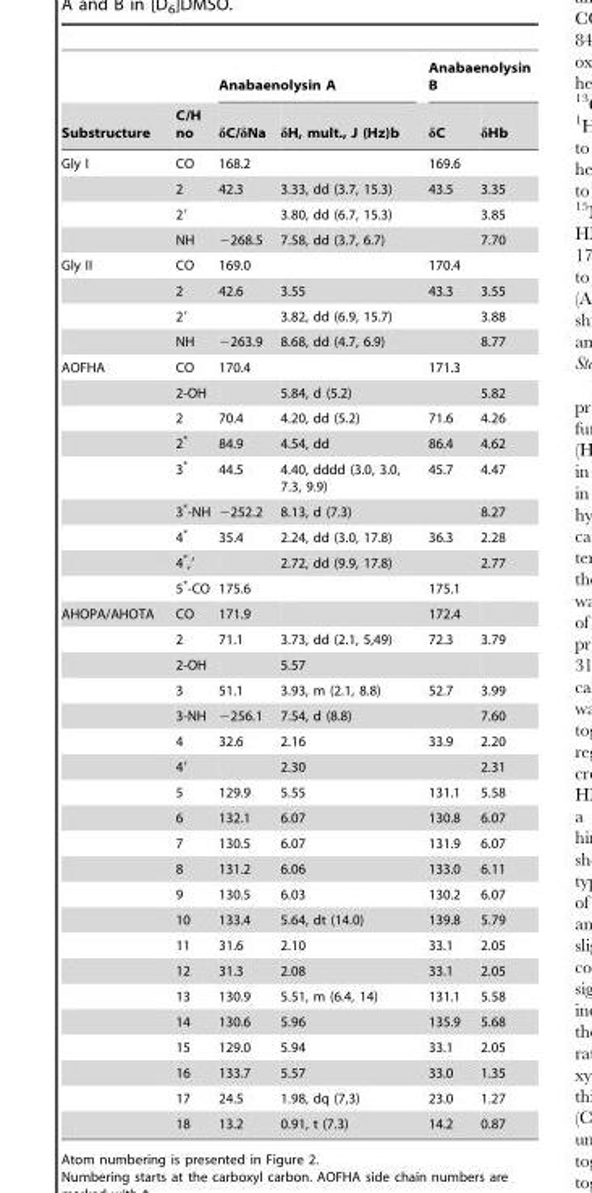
<table><thead><tr><td rowspan="2">Substructure</td><td rowspan="2">C/H no</td><td colspan="2">Anabaenolysin A</td><td colspan="2">Anabaenolysin B</td></tr><tr><td>δC/δNa</td><td>δH, mult., J (Hz)b</td><td>δC</td><td>δHb</td></tr></thead><tbody><tr><td rowspan="4">Gly I</td><td>CO</td><td>168.2</td><td></td><td>169.6</td><td></td></tr><tr><td>2</td><td>42.3</td><td>3.33, dd (3.7, 15.3)</td><td>43.5</td><td>3.35</td></tr><tr><td>2′</td><td></td><td>3.80, dd (6.7, 15.3)</td><td></td><td>3.85</td></tr><tr><td>NH</td><td>−268.5</td><td>7.58, dd (3.7, 6.7)</td><td></td><td>7.70</td></tr><tr><td rowspan="4">Gly II</td><td>CO</td><td>169.0</td><td></td><td>170.4</td><td></td></tr><tr><td>2</td><td>42.6</td><td>3.55</td><td>43.3</td><td>3.55</td></tr><tr><td>2′</td><td></td><td>3.82, dd (6.9, 15.7)</td><td></td><td>3.88</td></tr><tr><td>NH</td><td>−263.9</td><td>8.68, dd (4.7, 6.9)</td><td></td><td>8.77</td></tr><tr><td rowspan="9">AOFHA</td><td>CO</td><td>170.4</td><td></td><td>171.3</td><td></td></tr><tr><td>2-OH</td><td></td><td>5.84, d (5.2)</td><td></td><td>5.82</td></tr><tr><td>2</td><td>70.4</td><td>4.20, dd (5.2)</td><td>71.6</td><td>4.26</td></tr><tr><td>2*</td><td>84.9</td><td>4.54, dd</td><td>86.4</td><td>4.62</td></tr><tr><td>3*</td><td>44.5</td><td>4.40, dddd (3.0, 3.0, 7.3, 9.9)</td><td>45.7</td><td>4.47</td></tr><tr><td>3*-NH</td><td>−252.2</td><td>8.13, d (7.3)</td><td></td><td>8.27</td></tr><tr><td>4*</td><td>35.4</td><td>2.24, dd (3.0, 17.8)</td><td>36.3</td><td>2.28</td></tr><tr><td>4*,′</td><td></td><td>2.72, dd (9.9, 17.8)</td><td></td><td>2.77</td></tr><tr><td>5*-CO</td><td>175.6</td><td></td><td>175.1</td><td></td></tr><tr><td rowspan="21">AHOPA/AHOTA</td><td>CO</td><td>171.9</td><td></td><td>172.4</td><td></td></tr><tr><td>2</td><td>71.1</td><td>3.73, dd (2.1, 5,49)</td><td>72.3</td><td>3.79</td></tr><tr><td>2-OH</td><td></td><td>5.57</td><td></td><td></td></tr><tr><td>3</td><td>51.1</td><td>3.93, m (2.1, 8.8)</td><td>52.7</td><td>3.99</td></tr><tr><td>3-NH</td><td>−256.1</td><td>7.54, d (8.8)</td><td></td><td>7.60</td></tr><tr><td>4</td><td>32.6</td><td>2.16</td><td>33.9</td><td>2.20</td></tr><tr><td>4′</td><td></td><td>2.30</td><td></td><td>2.31</td></tr><tr><td>5</td><td>129.9</td><td>5.55</td><td>131.1</td><td>5.58</td></tr><tr><td>6</td><td>132.1</td><td>6.07</td><td>130.8</td><td>6.07</td></tr><tr><td>7</td><td>130.5</td><td>6.07</td><td>131.9</td><td>6.07</td></tr><tr><td>8</td><td>131.2</td><td>6.06</td><td>133.0</td><td>6.11</td></tr><tr><td>9</td><td>130.5</td><td>6.03</td><td>130.2</td><td>6.07</td></tr><tr><td>10</td><td>133.4</td><td>5.64, dt (14.0)</td><td>139.8</td><td>5.79</td></tr><tr><td>11</td><td>31.6</td><td>2.10</td><td>33.1</td><td>2.05</td></tr><tr><td>12</td><td>31.3</td><td>2.08</td><td>33.1</td><td>2.05</td></tr><tr><td>13</td><td>130.9</td><td>5.51, m (6.4, 14)</td><td>131.1</td><td>5.58</td></tr><tr><td>14</td><td>130.6</td><td>5.96</td><td>135.9</td><td>5.68</td></tr><tr><td>15</td><td>129.0</td><td>5.94</td><td>33.1</td><td>2.05</td></tr><tr><td>16</td><td>133.7</td><td>5.57</td><td>33.0</td><td>1.35</td></tr><tr><td>17</td><td>24.5</td><td>1.98, dq (7,3)</td><td>23.0</td><td>1.27</td></tr><tr><td>18</td><td>13.2</td><td>0.91, t (7.3)</td><td>14.2</td><td>0.87</td></tr></tbody></table>